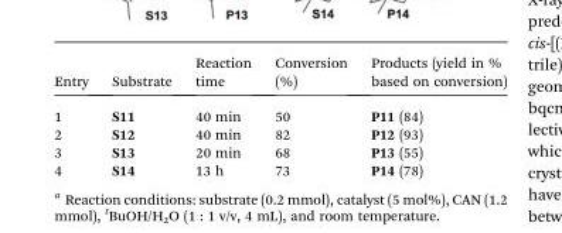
<table><thead><tr><td>Entry</td><td>Substrate</td><td>Reaction time</td><td>Conversion (%)</td><td>Products (yield in % based on conversion)</td></tr></thead><tbody><tr><td>1</td><td>S11</td><td>40 min</td><td>50</td><td>P11 (84)</td></tr><tr><td>2</td><td>S12</td><td>40 min</td><td>82</td><td>P12 (93)</td></tr><tr><td>3</td><td>S13</td><td>20 min</td><td>68</td><td>P13 (55)</td></tr><tr><td>4</td><td>S14</td><td>13 h</td><td>73</td><td>P14 (78)</td></tr></tbody></table>